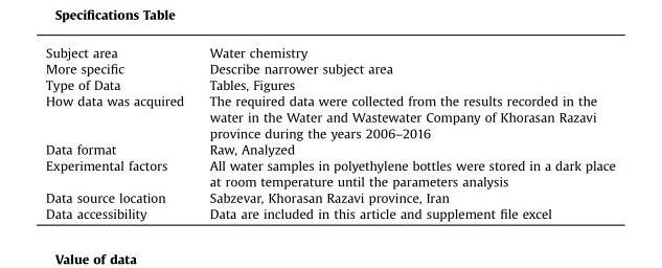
<table><tbody><tr><td>Subject area</td><td>Water chemistry</td></tr><tr><td>More specific</td><td>Describe narrower subject area</td></tr><tr><td>Type of Data</td><td>Tables, Figures</td></tr><tr><td>How data was acquired</td><td>The required data were collected from the results recorded in the water in the Water and Wastewater Company of Khorasan Razavi province during the years 2006–2016</td></tr><tr><td>Data format</td><td>Raw, Analyzed</td></tr><tr><td>Experimental factors</td><td>All water samples in polyethylene bottles were stored in a dark place at room temperature until the parameters analysis</td></tr><tr><td>Data source location</td><td>Sabzevar, Khorasan Razavi province, Iran</td></tr><tr><td>Data accessibility</td><td>Data are included in this article and supplement file excel</td></tr></tbody></table>